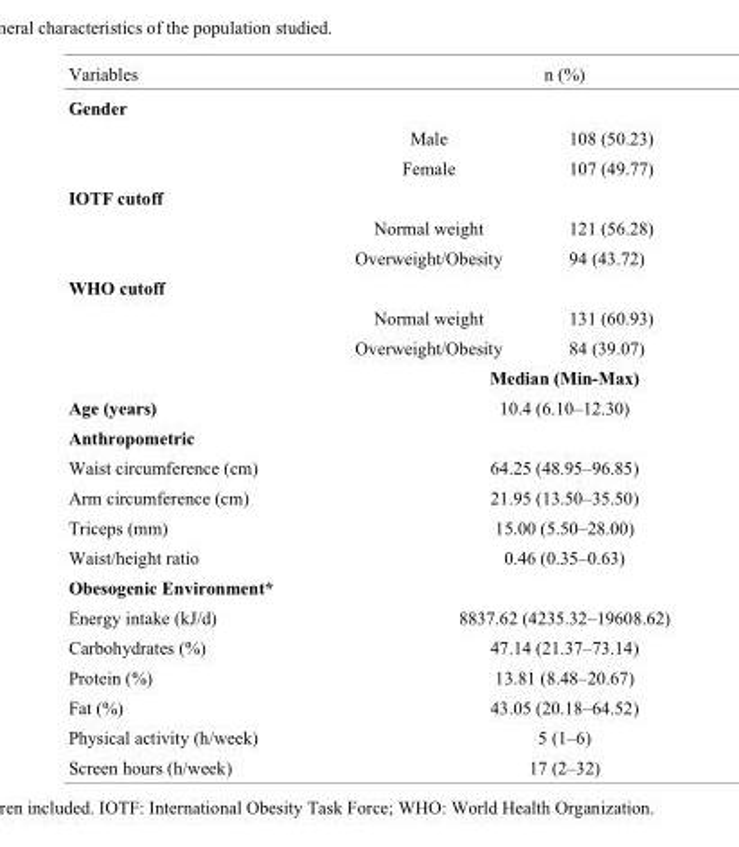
<table><thead><tr><td rowspan="2">Variables Gender</td><td colspan="2">n (%)</td></tr><tr><td></td><td></td></tr></thead><tbody><tr><td></td><td>Male</td><td>108 (50.23)</td></tr><tr><td></td><td>Female</td><td>107 (49.77)</td></tr><tr><td colspan="3">IOTF cutoff</td></tr><tr><td></td><td>Normal weight</td><td>121 (56.28)</td></tr><tr><td></td><td>Overweight/Obesity</td><td>94 (43.72)</td></tr><tr><td colspan="3">WHO cutoff</td></tr><tr><td></td><td>Normal weight</td><td>131 (60.93)</td></tr><tr><td></td><td>Overweight/Obesity</td><td>84 (39.07)</td></tr><tr><td></td><td colspan="2">Median (Min-Max)</td></tr><tr><td>Age (years)</td><td colspan="2">10.4 (6.10–12.30)</td></tr><tr><td colspan="3">Anthropometric</td></tr><tr><td>Waist circumference (cm)</td><td colspan="2">64.25 (48.95–96.85)</td></tr><tr><td>Arm circumference (cm)</td><td colspan="2">21.95 (13.50–35.50)</td></tr><tr><td>Triceps (mm)</td><td colspan="2">15.00 (5.50–28.00)</td></tr><tr><td>Waist/height ratio</td><td colspan="2">0.46 (0.35–0.63)</td></tr><tr><td colspan="3">Obesogenic Environment*</td></tr><tr><td>Energy intake (kJ/d)</td><td colspan="2">8837.62 (4235.32–19608.62)</td></tr><tr><td>Carbohydrates (%)</td><td colspan="2">47.14 (21.37–73.14)</td></tr><tr><td>Protein (%)</td><td colspan="2">13.81 (8.48–20.67)</td></tr><tr><td>Fat (%)</td><td colspan="2">43.05 (20.18–64.52)</td></tr><tr><td>Physical activity (h/week)</td><td colspan="2">5 (1–6)</td></tr><tr><td>Screen hours (h/week)</td><td colspan="2">17 (2–32)</td></tr></tbody></table>